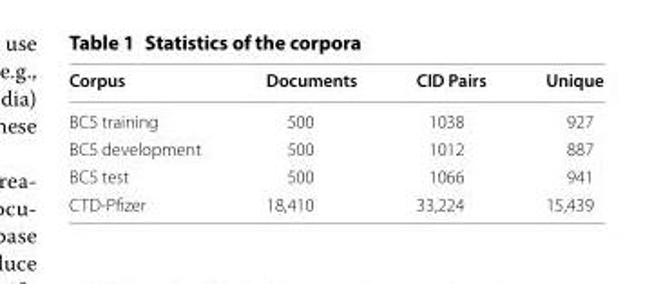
<table><thead><tr><td>Corpus</td><td>Documents</td><td>CID Pairs</td><td>Unique</td></tr></thead><tbody><tr><td>BC5 training</td><td>500</td><td>1038</td><td>927</td></tr><tr><td>BC5 development</td><td>500</td><td>1012</td><td>887</td></tr><tr><td>BC5 test</td><td>500</td><td>1066</td><td>941</td></tr><tr><td>CTD‑Pfizer</td><td>18,410</td><td>33,224</td><td>15,439</td></tr></tbody></table>